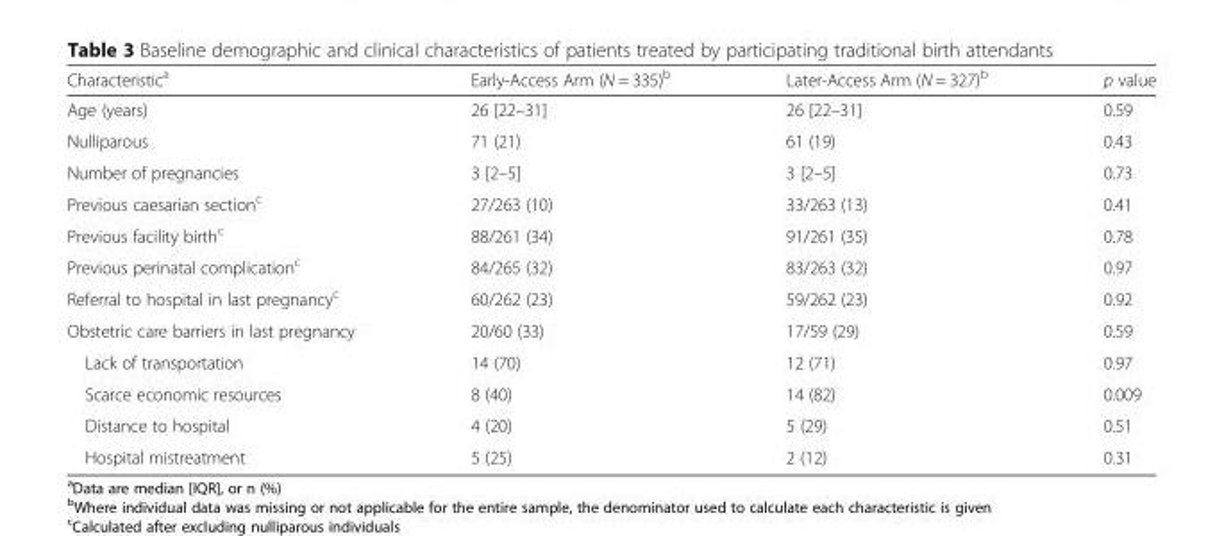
<table><thead><tr><td>Characteristic<sup>a</sup></td><td>Early-Access Arm (N = 335)<sup>b</sup></td><td>Later-Access Arm (N = 327)<sup>b</sup></td><td>p value</td></tr></thead><tbody><tr><td>Age (years)</td><td>26 [22–31]</td><td>26 [22–31]</td><td>0.59</td></tr><tr><td>Nulliparous</td><td>71 (21)</td><td>61 (19)</td><td>0.43</td></tr><tr><td>Number of pregnancies</td><td>3 [2–5]</td><td>3 [2–5]</td><td>0.73</td></tr><tr><td>Previous caesarian section<sup>c</sup></td><td>27/263 (10)</td><td>33/263 (13)</td><td>0.41</td></tr><tr><td>Previous facility birth<sup>c</sup></td><td>88/261 (34)</td><td>91/261 (35)</td><td>0.78</td></tr><tr><td>Previous perinatal complication<sup>c</sup></td><td>84/265 (32)</td><td>83/263 (32)</td><td>0.97</td></tr><tr><td>Referral to hospital in last pregnancy<sup>c</sup></td><td>60/262 (23)</td><td>59/262 (23)</td><td>0.92</td></tr><tr><td>Obstetric care barriers in last pregnancy</td><td>20/60 (33)</td><td>17/59 (29)</td><td>0.59</td></tr><tr><td>Lack of transportation</td><td>14 (70)</td><td>12 (71)</td><td>0.97</td></tr><tr><td>Scarce economic resources</td><td>8 (40)</td><td>14 (82)</td><td>0.009</td></tr><tr><td>Distance to hospital</td><td>4 (20)</td><td>5 (29)</td><td>0.51</td></tr><tr><td>Hospital mistreatment</td><td>5 (25)</td><td>2 (12)</td><td>0.31</td></tr></tbody></table>